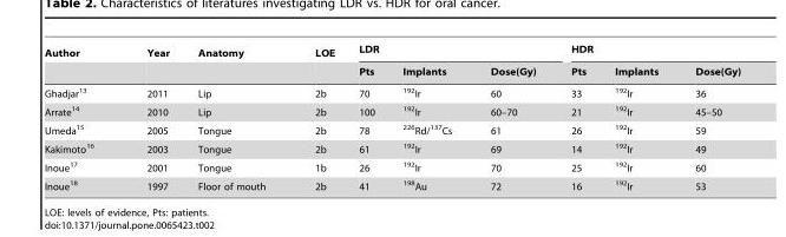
<table><thead><tr><td rowspan="2">Author</td><td rowspan="2">Year</td><td rowspan="2">Anatomy</td><td rowspan="2">LOE</td><td colspan="3">LDR</td><td colspan="3">HDR</td></tr><tr><td>Pts</td><td>Implants</td><td>Dose(Gy)</td><td>Pts</td><td>Implants</td><td>Dose(Gy)</td></tr></thead><tbody><tr><td>Ghadjar<sup>13</sup></td><td>2011</td><td>Lip</td><td>2b</td><td>70</td><td><sup>192</sup>Ir</td><td>60</td><td>33</td><td><sup>192</sup>Ir</td><td>36</td></tr><tr><td>Arrate<sup>14</sup></td><td>2010</td><td>Lip</td><td>2b</td><td>100</td><td><sup>192</sup>Ir</td><td>60–70</td><td>21</td><td><sup>192</sup>Ir</td><td>45–50</td></tr><tr><td>Umeda<sup>15</sup></td><td>2005</td><td>Tongue</td><td>2b</td><td>78</td><td><sup>226</sup>Rd/<sup>137</sup>Cs</td><td>61</td><td>26</td><td><sup>192</sup>Ir</td><td>59</td></tr><tr><td>Kakimoto<sup>16</sup></td><td>2003</td><td>Tongue</td><td>2b</td><td>61</td><td><sup>192</sup>Ir</td><td>69</td><td>14</td><td><sup>192</sup>Ir</td><td>49</td></tr><tr><td>Inoue<sup>17</sup></td><td>2001</td><td>Tongue</td><td>1b</td><td>26</td><td><sup>192</sup>Ir</td><td>70</td><td>25</td><td><sup>192</sup>Ir</td><td>60</td></tr><tr><td>Inoue<sup>18</sup></td><td>1997</td><td>Floor of mouth</td><td>2b</td><td>41</td><td><sup>198</sup>Au</td><td>72</td><td>16</td><td><sup>192</sup>Ir</td><td>53</td></tr></tbody></table>